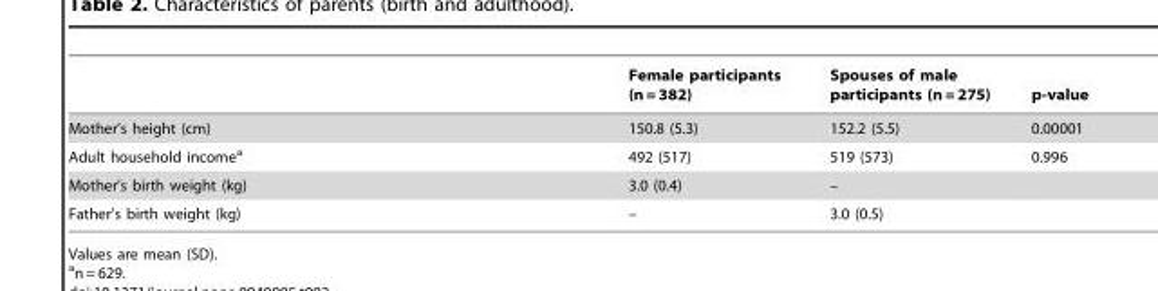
<table><thead><tr><td></td><td>Female participants (n = 382)</td><td>Spouses of male participants (n = 275)</td><td>p-value</td></tr></thead><tbody><tr><td>Mother’s height (cm)</td><td>150.8 (5.3)</td><td>152.2 (5.5)</td><td>0.00001</td></tr><tr><td>Adult household income<sup>a</sup></td><td>492 (517)</td><td>519 (573)</td><td>0.996</td></tr><tr><td>Mother’s birth weight (kg)</td><td>3.0 (0.4)</td><td>–</td><td></td></tr><tr><td>Father’s birth weight (kg)</td><td>–</td><td>3.0 (0.5)</td><td></td></tr></tbody></table>